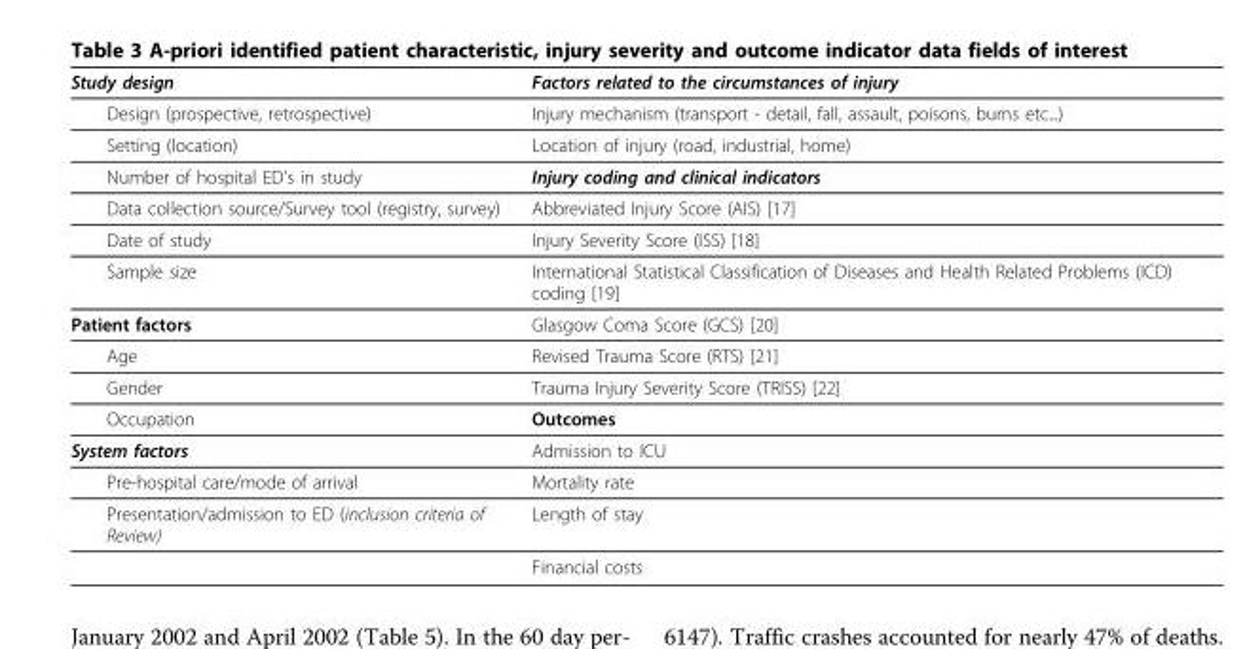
<table><thead><tr><td>Study design</td><td>Factors related to the circumstances of injury</td></tr></thead><tbody><tr><td>Design (prospective, retrospective)</td><td>Injury mechanism (transport - detail, fall, assault, poisons, burns etc...)</td></tr><tr><td>Setting (location)</td><td>Location of injury (road, industrial, home)</td></tr><tr><td>Number of hospital ED’s in study</td><td>Injury coding and clinical indicators</td></tr><tr><td>Data collection source/Survey tool (registry, survey)</td><td>Abbreviated Injury Score (AIS) [17]</td></tr><tr><td>Date of study</td><td>Injury Severity Score (ISS) [18]</td></tr><tr><td>Sample size</td><td>International Statistical Classification of Diseases and Health Related Problems (ICD) coding [19]</td></tr><tr><td>Patient factors</td><td>Glasgow Coma Score (GCS) [20]</td></tr><tr><td>Age</td><td>Revised Trauma Score (RTS) [21]</td></tr><tr><td>Gender</td><td>Trauma Injury Severity Score (TRISS) [22]</td></tr><tr><td>Occupation</td><td>Outcomes</td></tr><tr><td>System factors</td><td>Admission to ICU</td></tr><tr><td>Pre-hospital care/mode of arrival</td><td>Mortality rate</td></tr><tr><td rowspan="2">Presentation/admission to ED (inclusion criteria of Review)</td><td>Length of stay</td></tr><tr><td>Financial costs</td></tr></tbody></table>